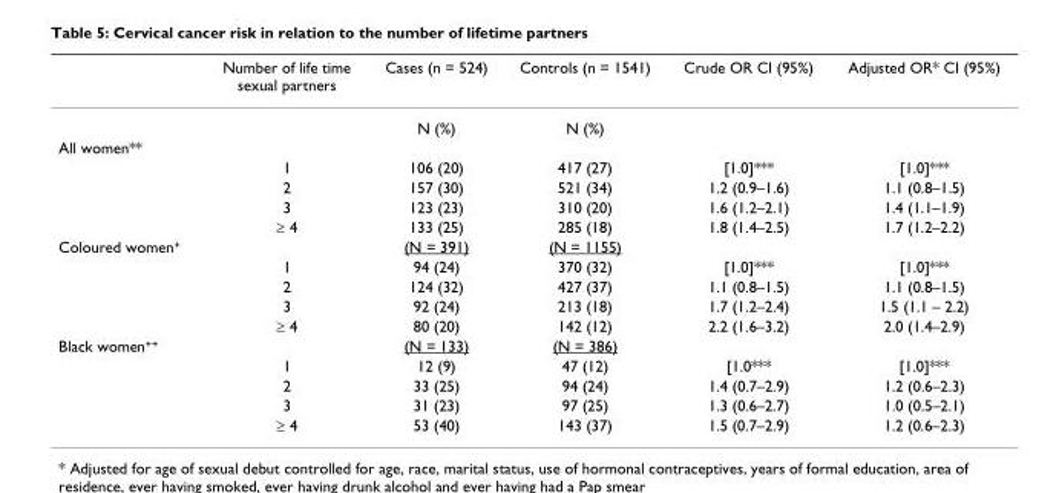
<table><thead><tr><td></td><td>Number of life time sexual partners</td><td>Cases (n = 524)</td><td>Controls (n = 1541)</td><td>Crude OR CI (95%)</td><td>Adjusted OR* CI (95%)</td></tr></thead><tbody><tr><td></td><td></td><td>N (%)</td><td>N (%)</td><td></td><td></td></tr><tr><td colspan="6">All women**</td></tr><tr><td></td><td>1</td><td>106 (20)</td><td>417 (27)</td><td>[1.0]***</td><td>[1.0]***</td></tr><tr><td></td><td>2</td><td>157 (30)</td><td>521 (34)</td><td>1.2 (0.9–1.6)</td><td>1.1 (0.8–1.5)</td></tr><tr><td></td><td>3</td><td>123 (23)</td><td>310 (20)</td><td>1.6 (1.2–2.1)</td><td>1.4 (1.1–1.9)</td></tr><tr><td></td><td>≥ 4</td><td>133 (25)</td><td>285 (18)</td><td>1.8 (1.4–2.5)</td><td>1.7 (1.2–2.2)</td></tr><tr><td rowspan="5">Coloured women<sup>+</sup></td><td></td><td>(N = 391)</td><td>(N = 1155)</td><td></td><td></td></tr><tr><td>1</td><td>94 (24)</td><td>370 (32)</td><td>[1.0]***</td><td>[1.0]***</td></tr><tr><td>2</td><td>124 (32)</td><td>427 (37)</td><td>1.1 (0.8–1.5)</td><td>1.1 (0.8–1.5)</td></tr><tr><td>3</td><td>92 (24)</td><td>213 (18)</td><td>1.7 (1.2–2.4)</td><td>1.5 (1.1 – 2.2)</td></tr><tr><td>≥ 4</td><td>80 (20)</td><td>142 (12)</td><td>2.2 (1.6–3.2)</td><td>2.0 (1.4–2.9)</td></tr><tr><td rowspan="5">Black women<sup>++</sup></td><td></td><td>(N = 133)</td><td>(N = 386)</td><td></td><td></td></tr><tr><td>1</td><td>12 (9)</td><td>47 (12)</td><td>[1.0***</td><td>[1.0]***</td></tr><tr><td>2</td><td>33 (25)</td><td>94 (24)</td><td>1.4 (0.7–2.9)</td><td>1.2 (0.6–2.3)</td></tr><tr><td>3</td><td>31 (23)</td><td>97 (25)</td><td>1.3 (0.6–2.7)</td><td>1.0 (0.5–2.1)</td></tr><tr><td>≥ 4</td><td>53 (40)</td><td>143 (37)</td><td>1.5 (0.7–2.9)</td><td>1.2 (0.6–2.3)</td></tr></tbody></table>